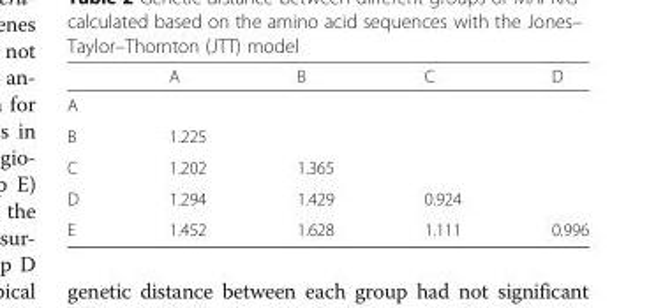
<table><thead><tr><td></td><td>A</td><td>B</td><td>C</td><td>D</td></tr></thead><tbody><tr><td colspan="5">A</td></tr><tr><td>B</td><td>1.225</td><td></td><td></td><td></td></tr><tr><td>C</td><td>1.202</td><td>1.365</td><td></td><td></td></tr><tr><td>D</td><td>1.294</td><td>1.429</td><td>0.924</td><td></td></tr><tr><td>E</td><td>1.452</td><td>1.628</td><td>1.111</td><td>0.996</td></tr></tbody></table>